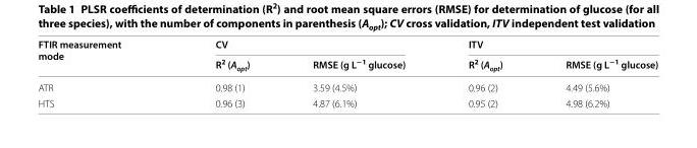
<table><thead><tr><td rowspan="2">FTIR measurement mode</td><td colspan="2">CV</td><td colspan="2">ITV</td></tr><tr><td>R<sup>2</sup> (A<sub>opt</sub>)</td><td>RMSE (g L<sup>−1</sup> glucose)</td><td>R<sup>2</sup> (A<sub>opt</sub>)</td><td>RMSE (g L<sup>−1</sup> glucose)</td></tr></thead><tbody><tr><td>ATR</td><td>0.98 (1)</td><td>3.59 (4.5%)</td><td>0.96 (2)</td><td>4.49 (5.6%)</td></tr><tr><td>HTS</td><td>0.96 (3)</td><td>4.87 (6.1%)</td><td>0.95 (2)</td><td>4.98 (6.2%)</td></tr></tbody></table>